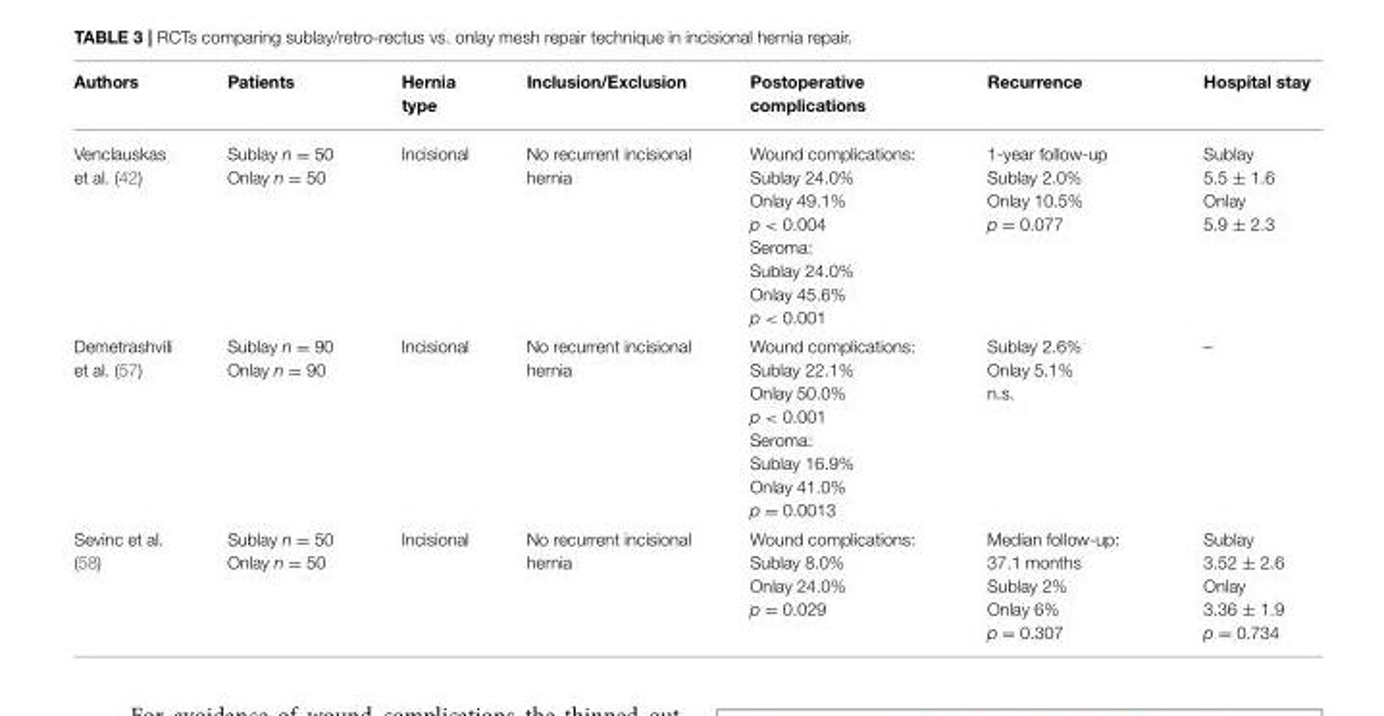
<table><thead><tr><td>Authors</td><td>Patients</td><td>Hernia type</td><td>Inclusion/Exclusion</td><td>Postoperative complications</td><td>Recurrence</td><td>Hospital stay</td></tr></thead><tbody><tr><td>Venclauskas et al. (42)</td><td>Sublay n = 50 Onlay n = 50</td><td>Incisional</td><td>No recurrent incisional hernia</td><td>Wound complications: Sublay 24.0% Onlay 49.1% p &lt; 0.004 Seroma: Sublay 24.0% Onlay 45.6% p &lt; 0.001</td><td>1-year follow-up Sublay 2.0% Onlay 10.5% p = 0.077</td><td>Sublay 5.5 ± 1.6 Onlay 5.9 ± 2.3</td></tr><tr><td>Demetrashvili et al. (57)</td><td>Sublay n = 90 Onlay n = 90</td><td>Incisional</td><td>No recurrent incisional hernia</td><td>Wound complications: Sublay 22.1% Onlay 50.0% p &lt; 0.001 Seroma: Sublay 16.9% Onlay 41.0% p = 0.0013</td><td>Sublay 2.6% Onlay 5.1% n.s.</td><td>–</td></tr><tr><td>Sevinc et al. (58)</td><td>Sublay n = 50 Onlay n = 50</td><td>Incisional</td><td>No recurrent incisional hernia</td><td>Wound complications: Sublay 8.0% Onlay 24.0% p = 0.029</td><td>Median follow-up: 37.1 months Sublay 2% Onlay 6% p = 0.307</td><td>Sublay 3.52 ± 2.6 Onlay 3.36 ± 1.9 p = 0.734</td></tr></tbody></table>